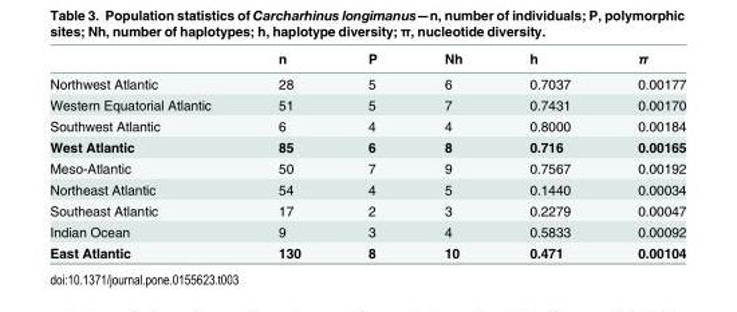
<table><thead><tr><td></td><td>n</td><td>P</td><td>Nh</td><td>h</td><td>π</td></tr></thead><tbody><tr><td>Northwest Atlantic</td><td>28</td><td>5</td><td>6</td><td>0.7037</td><td>0.00177</td></tr><tr><td>Western Equatorial Atlantic</td><td>51</td><td>5</td><td>7</td><td>0.7431</td><td>0.00170</td></tr><tr><td>Southwest Atlantic</td><td>6</td><td>4</td><td>4</td><td>0.8000</td><td>0.00184</td></tr><tr><td>West Atlantic</td><td>85</td><td>6</td><td>8</td><td>0.716</td><td>0.00165</td></tr><tr><td>Meso-Atlantic</td><td>50</td><td>7</td><td>9</td><td>0.7567</td><td>0.00192</td></tr><tr><td>Northeast Atlantic</td><td>54</td><td>4</td><td>5</td><td>0.1440</td><td>0.00034</td></tr><tr><td>Southeast Atlantic</td><td>17</td><td>2</td><td>3</td><td>0.2279</td><td>0.00047</td></tr><tr><td>Indian Ocean</td><td>9</td><td>3</td><td>4</td><td>0.5833</td><td>0.00092</td></tr><tr><td>East Atlantic</td><td>130</td><td>8</td><td>10</td><td>0.471</td><td>0.00104</td></tr></tbody></table>